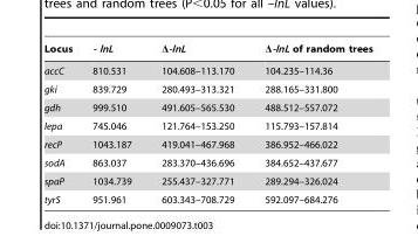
<table><thead><tr><td>Locus</td><td>- lnL</td><td>Δ-lnL</td><td>Δ-lnL of random trees</td></tr></thead><tbody><tr><td>accC</td><td>810.531</td><td>104.608–113.170</td><td>104.235–114.36</td></tr><tr><td>gki</td><td>839.729</td><td>280.493–313.321</td><td>288.165–331.800</td></tr><tr><td>gdh</td><td>999.510</td><td>491.605–565.530</td><td>488.512–557.072</td></tr><tr><td>lepa</td><td>745.046</td><td>121.764–153.250</td><td>115.793–157.814</td></tr><tr><td>recP</td><td>1043.187</td><td>419.041–467.968</td><td>386.952–466.022</td></tr><tr><td>sodA</td><td>863.037</td><td>283.370–436.696</td><td>384.652–437.677</td></tr><tr><td>spaP</td><td>1034.739</td><td>255.437–327.771</td><td>289.294–326.024</td></tr><tr><td>tyrS</td><td>951.961</td><td>603.343–708.729</td><td>592.097–684.276</td></tr></tbody></table>